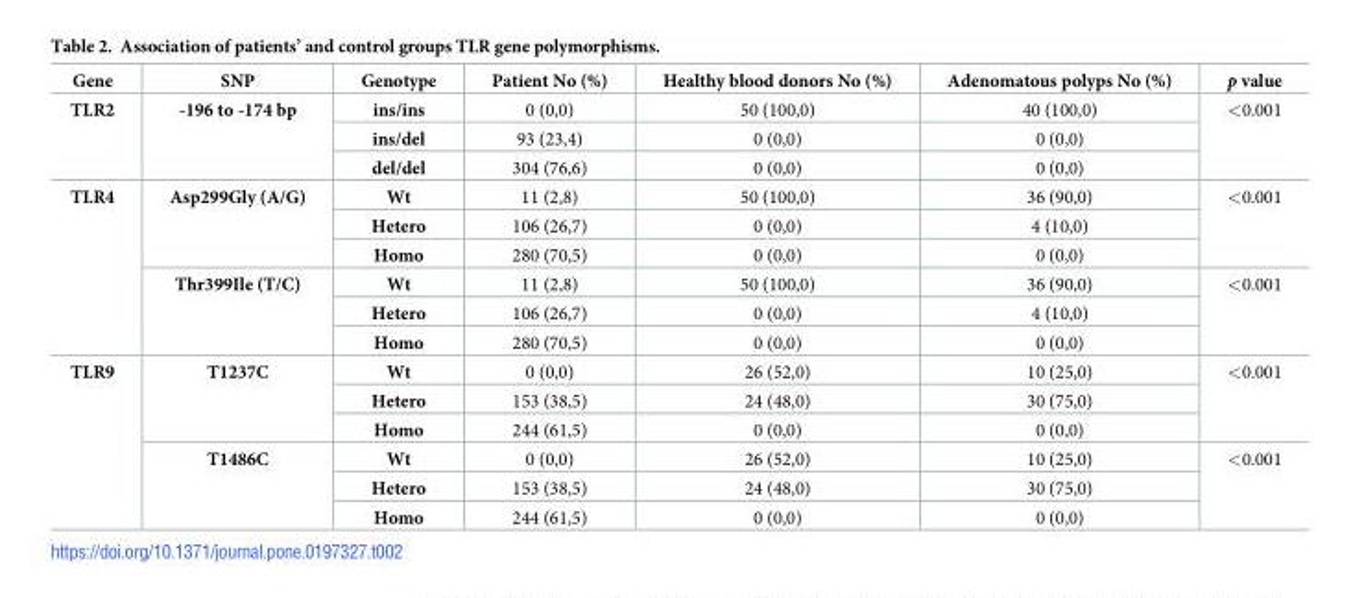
<table><thead><tr><td>Gene</td><td>SNP</td><td>Genotype</td><td>Patient No (%)</td><td>Healthy blood donors No (%)</td><td>Adenomatous polyps No (%)</td><td>p value</td></tr></thead><tbody><tr><td rowspan="3">TLR2</td><td rowspan="3">-196 to -174 bp</td><td>ins/ins</td><td>0 (0,0)</td><td>50 (100,0)</td><td>40 (100,0)</td><td rowspan="3">&lt;0.001</td></tr><tr><td>ins/del</td><td>93 (23,4)</td><td>0 (0,0)</td><td>0 (0,0)</td></tr><tr><td>del/del</td><td>304 (76,6)</td><td>0 (0,0)</td><td>0 (0,0)</td></tr><tr><td rowspan="6">TLR4</td><td rowspan="3">Asp299Gly (A/G)</td><td>Wt</td><td>11 (2,8)</td><td>50 (100,0)</td><td>36 (90,0)</td><td rowspan="3">&lt;0.001</td></tr><tr><td>Hetero</td><td>106 (26,7)</td><td>0 (0,0)</td><td>4 (10,0)</td></tr><tr><td>Homo</td><td>280 (70,5)</td><td>0 (0,0)</td><td>0 (0,0)</td></tr><tr><td rowspan="3">Thr399Ile (T/C)</td><td>Wt</td><td>11 (2,8)</td><td>50 (100,0)</td><td>36 (90,0)</td><td rowspan="3">&lt;0.001</td></tr><tr><td>Hetero</td><td>106 (26,7)</td><td>0 (0,0)</td><td>4 (10,0)</td></tr><tr><td>Homo</td><td>280 (70,5)</td><td>0 (0,0)</td><td>0 (0,0)</td></tr><tr><td rowspan="6">TLR9</td><td rowspan="3">T1237C</td><td>Wt</td><td>0 (0,0)</td><td>26 (52,0)</td><td>10 (25,0)</td><td rowspan="3">&lt;0.001</td></tr><tr><td>Hetero</td><td>153 (38,5)</td><td>24 (48,0)</td><td>30 (75,0)</td></tr><tr><td>Homo</td><td>244 (61,5)</td><td>0 (0,0)</td><td>0 (0,0)</td></tr><tr><td rowspan="3">T1486C</td><td>Wt</td><td>0 (0,0)</td><td>26 (52,0)</td><td>10 (25,0)</td><td rowspan="3">&lt;0.001</td></tr><tr><td>Hetero</td><td>153 (38,5)</td><td>24 (48,0)</td><td>30 (75,0)</td></tr><tr><td>Homo</td><td>244 (61,5)</td><td>0 (0,0)</td><td>0 (0,0)</td></tr></tbody></table>